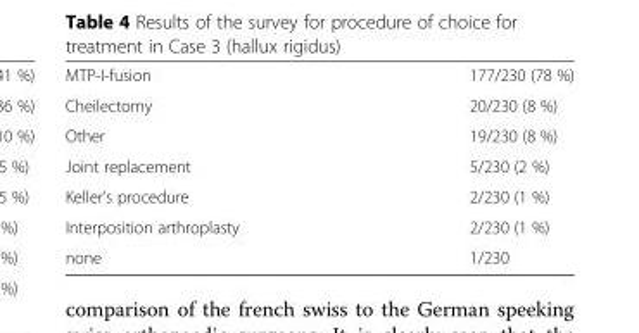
<table><tbody><tr><td>MTP-I-fusion</td><td>177/230 (78 %)</td></tr><tr><td>Cheilectomy</td><td>20/230 (8 %)</td></tr><tr><td>Other</td><td>19/230 (8 %)</td></tr><tr><td>Joint replacement</td><td>5/230 (2 %)</td></tr><tr><td>Keller’s procedure</td><td>2/230 (1 %)</td></tr><tr><td>Interposition arthroplasty</td><td>2/230 (1 %)</td></tr><tr><td>none</td><td>1/230</td></tr></tbody></table>